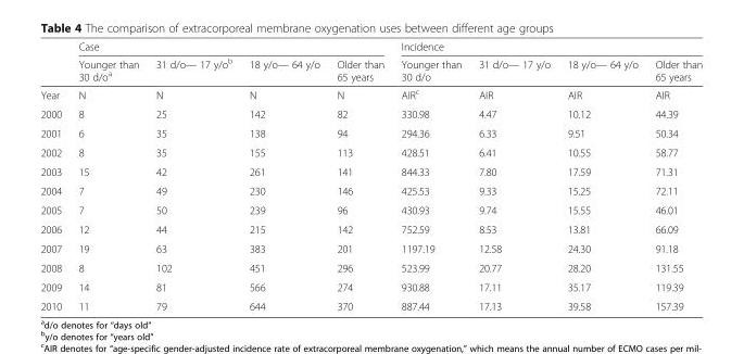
<table><thead><tr><td rowspan="2"></td><td colspan="4">Case</td><td colspan="4">Incidence</td></tr><tr><td>Younger than 30 d/o<sup>a</sup></td><td>31 d/o— 17 y/o<sup>b</sup></td><td>18 y/o— 64 y/o</td><td>Older than 65 years</td><td>Younger than 30 d/o</td><td>31 d/o— 17 y/o</td><td>18 y/o— 64 y/o</td><td>Older than 65 years</td></tr></thead><tbody><tr><td>Year</td><td>N</td><td>N</td><td>N</td><td>N</td><td>AIR<sup>c</sup></td><td>AIR</td><td>AIR</td><td>AIR</td></tr><tr><td>2000</td><td>8</td><td>25</td><td>142</td><td>82</td><td>330.98</td><td>4.47</td><td>10.12</td><td>44.39</td></tr><tr><td>2001</td><td>6</td><td>35</td><td>138</td><td>94</td><td>294.36</td><td>6.33</td><td>9.51</td><td>50.34</td></tr><tr><td>2002</td><td>8</td><td>35</td><td>155</td><td>113</td><td>428.51</td><td>6.41</td><td>10.55</td><td>58.77</td></tr><tr><td>2003</td><td>15</td><td>42</td><td>261</td><td>141</td><td>844.33</td><td>7.80</td><td>17.59</td><td>71.31</td></tr><tr><td>2004</td><td>7</td><td>49</td><td>230</td><td>146</td><td>425.53</td><td>9.33</td><td>15.25</td><td>72.11</td></tr><tr><td>2005</td><td>7</td><td>50</td><td>239</td><td>96</td><td>430.93</td><td>9.74</td><td>15.55</td><td>46.01</td></tr><tr><td>2006</td><td>12</td><td>44</td><td>215</td><td>142</td><td>752.59</td><td>8.53</td><td>13.81</td><td>66.09</td></tr><tr><td>2007</td><td>19</td><td>63</td><td>383</td><td>201</td><td>1197.19</td><td>12.58</td><td>24.30</td><td>91.18</td></tr><tr><td>2008</td><td>8</td><td>102</td><td>451</td><td>296</td><td>523.99</td><td>20.77</td><td>28.20</td><td>131.55</td></tr><tr><td>2009</td><td>14</td><td>81</td><td>566</td><td>274</td><td>930.88</td><td>17.11</td><td>35.17</td><td>119.39</td></tr><tr><td>2010</td><td>11</td><td>79</td><td>644</td><td>370</td><td>887.44</td><td>17.13</td><td>39.58</td><td>157.39</td></tr></tbody></table>